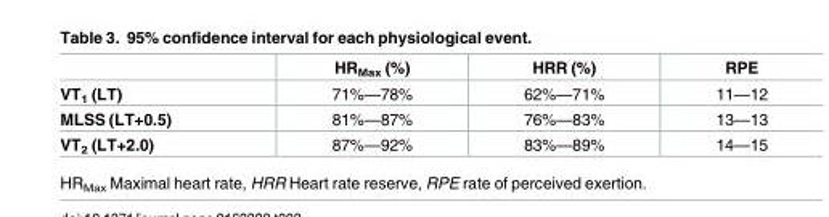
<table><thead><tr><td></td><td>HR<sub>Max</sub> (%)</td><td>HRR (%)</td><td>RPE</td></tr></thead><tbody><tr><td>VT<sub>1</sub> (LT)</td><td>71%—78%</td><td>62%—71%</td><td>11—12</td></tr><tr><td>MLSS (LT+0.5)</td><td>81%—87%</td><td>76%—83%</td><td>13—13</td></tr><tr><td>VT<sub>2</sub> (LT+2.0)</td><td>87%—92%</td><td>83%—89%</td><td>14—15</td></tr></tbody></table>